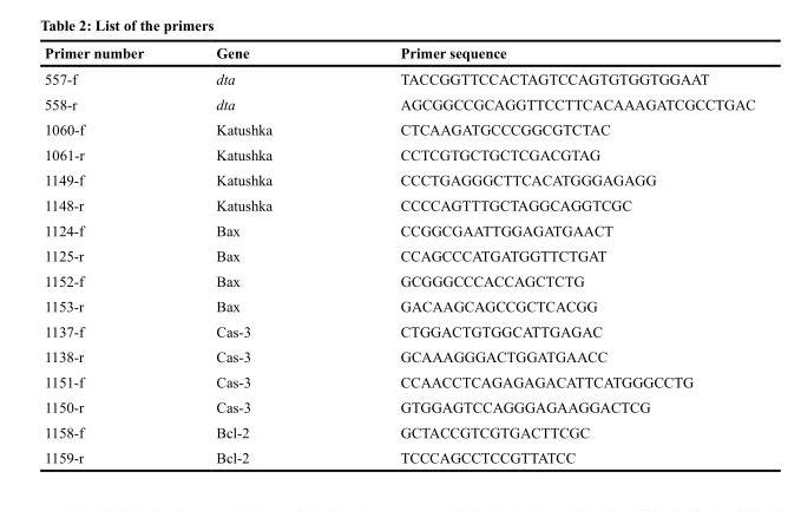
<table><thead><tr><td>Primer number</td><td>Gene</td><td>Primer sequence</td></tr></thead><tbody><tr><td>557-f</td><td>dta</td><td>TACCGGTTCCACTAGTCCAGTGTGGTGGAAT</td></tr><tr><td>558-r</td><td>dta</td><td>AGCGGCCGCAGGTTCCTTCACAAAGATCGCCTGAC</td></tr><tr><td>1060-f</td><td>Katushka</td><td>CTCAAGATGCCCGGCGTCTAC</td></tr><tr><td>1061-r</td><td>Katushka</td><td>CCTCGTGCTGCTCGACGTAG</td></tr><tr><td>1149-f</td><td>Katushka</td><td>CCCTGAGGGCTTCACATGGGAGAGG</td></tr><tr><td>1148-r</td><td>Katushka</td><td>CCCCAGTTTGCTAGGCAGGTCGC</td></tr><tr><td>1124-f</td><td>Bax</td><td>CCGGCGAATTGGAGATGAACT</td></tr><tr><td>1125-r</td><td>Bax</td><td>CCAGCCCATGATGGTTCTGAT</td></tr><tr><td>1152-f</td><td>Bax</td><td>GCGGGCCCACCAGCTCTG</td></tr><tr><td>1153-r</td><td>Bax</td><td>GACAAGCAGCCGCTCACGG</td></tr><tr><td>1137-f</td><td>Cas-3</td><td>CTGGACTGTGGCATTGAGAC</td></tr><tr><td>1138-r</td><td>Cas-3</td><td>GCAAAGGGACTGGATGAACC</td></tr><tr><td>1151-f</td><td>Cas-3</td><td>CCAACCTCAGAGAGACATTCATGGGCCTG</td></tr><tr><td>1150-r</td><td>Cas-3</td><td>GTGGAGTCCAGGGAGAAGGACTCG</td></tr><tr><td>1158-f</td><td>Bcl-2</td><td>GCTACCGTCGTGACTTCGC</td></tr><tr><td>1159-r</td><td>Bcl-2</td><td>TCCCAGCCTCCGTTATCC</td></tr></tbody></table>